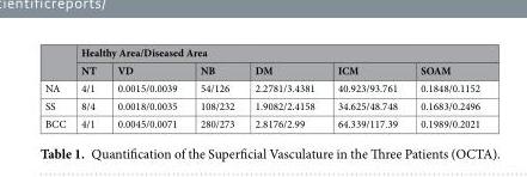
<table><thead><tr><td rowspan="2"></td><td colspan="6">Healthy Area/Diseased Area</td></tr><tr><td>NT</td><td>VD</td><td>NB</td><td>DM</td><td>ICM</td><td>SOAM</td></tr></thead><tbody><tr><td>NA</td><td>4/1</td><td>0.0015/0.0039</td><td>54/126</td><td>2.2781/3.4381</td><td>40.923/93.761</td><td>0.1848/0.1152</td></tr><tr><td>SS</td><td>8/4</td><td>0.0018/0.0035</td><td>108/232</td><td>1.9082/2.4158</td><td>34.625/48.748</td><td>0.1683/0.2496</td></tr><tr><td>BCC</td><td>4/1</td><td>0.0045/0.0071</td><td>280/273</td><td>2.8176/2.99</td><td>64.339/117.39</td><td>0.1989/0.2021</td></tr></tbody></table>